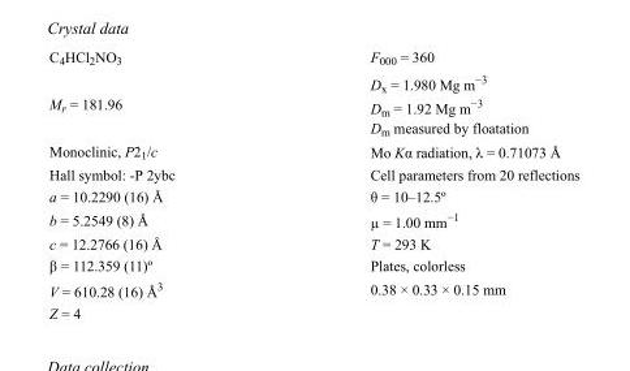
<table><tbody><tr><td>C<sub>4</sub>HCl<sub>2</sub>NO<sub>3</sub></td><td>F000 = 360</td></tr><tr><td>M<sub>r</sub> = 181.96</td><td>D<sub>x</sub> = 1.980 Mg m<sup>−3</sup> D<sub>m</sub> = 1.92 Mg m<sup>−3</sup> D<sub>m</sub> measured by floatation</td></tr><tr><td>Monoclinic, P2<sub>1</sub>/c</td><td>Mo Kα radiation, λ = 0.71073 Å</td></tr><tr><td>Hall symbol: -P 2ybc</td><td>Cell parameters from 20 reflections</td></tr><tr><td>a = 10.2290 (16) Å</td><td>θ = 10–12.5º</td></tr><tr><td>b = 5.2549 (8) Å</td><td>µ = 1.00 mm<sup>−1</sup></td></tr><tr><td>c = 12.2766 (16) Å</td><td>T = 293 K</td></tr><tr><td>β = 112.359 (11)º</td><td>Plates, colorless</td></tr><tr><td>V = 610.28 (16) Å<sup>3</sup></td><td>0.38 × 0.33 × 0.15 mm</td></tr><tr><td>Z = 4</td><td></td></tr></tbody></table>